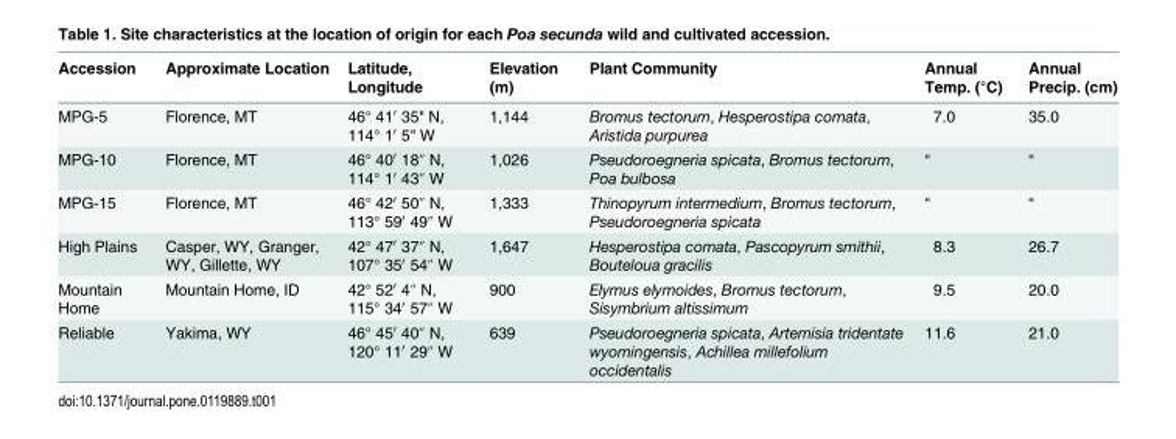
<table><thead><tr><td>Accession</td><td>Approximate Location</td><td>Latitude, Longitude</td><td>Elevation (m)</td><td>Plant Community</td><td>Annual Temp. (°C)</td><td>Annual Precip. (cm)</td></tr></thead><tbody><tr><td>MPG-5</td><td>Florence, MT</td><td>46° 41′ 35&quot; N, 114° 1′ 5&quot; W</td><td>1,144</td><td>Bromus tectorum, Hesperostipa comata, Aristida purpurea</td><td>7.0</td><td>35.0</td></tr><tr><td>MPG-10</td><td>Florence, MT</td><td>46° 40′ 18″ N, 114° 1′ 43″ W</td><td>1,026</td><td>Pseudoroegneria spicata, Bromus tectorum, Poa bulbosa</td><td>“</td><td>“</td></tr><tr><td>MPG-15</td><td>Florence, MT</td><td>46° 42′ 50″ N, 113° 59′ 49″ W</td><td>1,333</td><td>Thinopyrum intermedium, Bromus tectorum, Pseudoroegneria spicata</td><td>“</td><td>“</td></tr><tr><td>High Plains</td><td>Casper, WY, Granger, WY, Gillette, WY</td><td>42° 47′ 37″ N, 107° 35′ 54″ W</td><td>1,647</td><td>Hesperostipa comata, Pascopyrum smithii, Bouteloua gracilis</td><td>8.3</td><td>26.7</td></tr><tr><td>Mountain Home</td><td>Mountain Home, ID</td><td>42° 52′ 4″ N, 115° 34′ 57″ W</td><td>900</td><td>Elymus elymoides, Bromus tectorum, Sisymbrium altissimum</td><td>9.5</td><td>20.0</td></tr><tr><td>Reliable</td><td>Yakima, WY</td><td>46° 45′ 40″ N, 120° 11′ 29″ W</td><td>639</td><td>Pseudoroegneria spicata, Artemisia tridentate wyomingensis, Achillea millefolium occidentalis</td><td>11.6</td><td>21.0</td></tr></tbody></table>